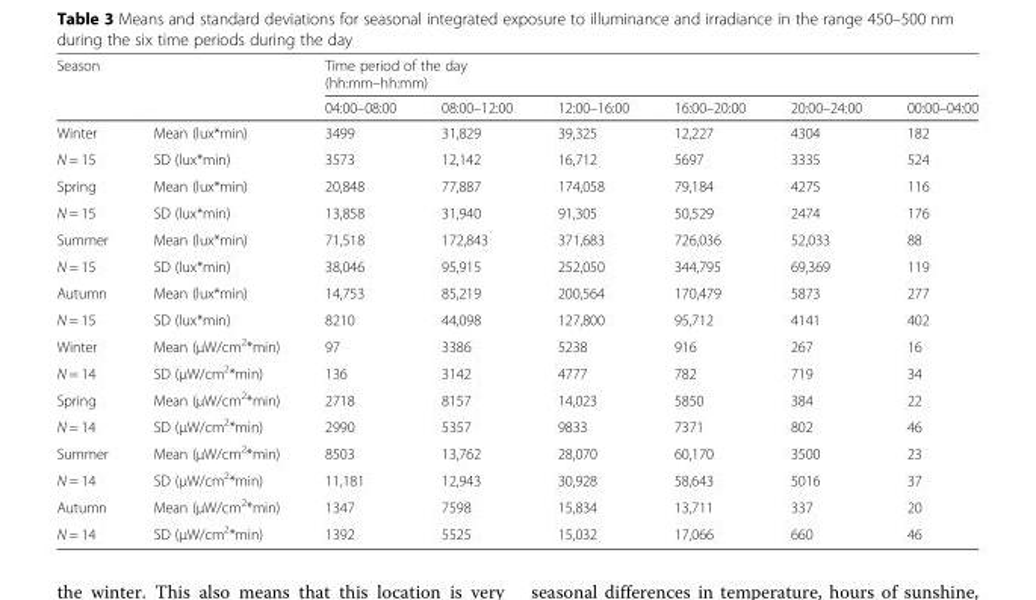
<table><thead><tr><td rowspan="2">Season</td><td rowspan="2"></td><td colspan="6">Time period of the day (hh:mm–hh:mm)</td></tr><tr><td>04:00–08:00</td><td>08:00–12:00</td><td>12:00–16:00</td><td>16:00–20:00</td><td>20:00–24:00</td><td>00:00–04:00</td></tr></thead><tbody><tr><td>Winter</td><td>Mean (lux*min)</td><td>3499</td><td>31,829</td><td>39,325</td><td>12,227</td><td>4304</td><td>182</td></tr><tr><td>N = 15</td><td>SD (lux*min)</td><td>3573</td><td>12,142</td><td>16,712</td><td>5697</td><td>3335</td><td>524</td></tr><tr><td>Spring</td><td>Mean (lux*min)</td><td>20,848</td><td>77,887</td><td>174,058</td><td>79,184</td><td>4275</td><td>116</td></tr><tr><td>N = 15</td><td>SD (lux*min)</td><td>13,858</td><td>31,940</td><td>91,305</td><td>50,529</td><td>2474</td><td>176</td></tr><tr><td>Summer</td><td>Mean (lux*min)</td><td>71,518</td><td>172,843</td><td>371,683</td><td>726,036</td><td>52,033</td><td>88</td></tr><tr><td>N = 15</td><td>SD (lux*min)</td><td>38,046</td><td>95,915</td><td>252,050</td><td>344,795</td><td>69,369</td><td>119</td></tr><tr><td>Autumn</td><td>Mean (lux*min)</td><td>14,753</td><td>85,219</td><td>200,564</td><td>170,479</td><td>5873</td><td>277</td></tr><tr><td>N = 15</td><td>SD (lux*min)</td><td>8210</td><td>44,098</td><td>127,800</td><td>95,712</td><td>4141</td><td>402</td></tr><tr><td>Winter</td><td>Mean (μW/cm<sup>2</sup>*min)</td><td>97</td><td>3386</td><td>5238</td><td>916</td><td>267</td><td>16</td></tr><tr><td>N = 14</td><td>SD (μW/cm<sup>2</sup>*min)</td><td>136</td><td>3142</td><td>4777</td><td>782</td><td>719</td><td>34</td></tr><tr><td>Spring</td><td>Mean (μW/cm<sup>2</sup>*min)</td><td>2718</td><td>8157</td><td>14,023</td><td>5850</td><td>384</td><td>22</td></tr><tr><td>N = 14</td><td>SD (μW/cm<sup>2</sup>*min)</td><td>2990</td><td>5357</td><td>9833</td><td>7371</td><td>802</td><td>46</td></tr><tr><td>Summer</td><td>Mean (μW/cm<sup>2</sup>*min)</td><td>8503</td><td>13,762</td><td>28,070</td><td>60,170</td><td>3500</td><td>23</td></tr><tr><td>N = 14</td><td>SD (μW/cm<sup>2</sup>*min)</td><td>11,181</td><td>12,943</td><td>30,928</td><td>58,643</td><td>5016</td><td>37</td></tr><tr><td>Autumn</td><td>Mean (μW/cm<sup>2</sup>*min)</td><td>1347</td><td>7598</td><td>15,834</td><td>13,711</td><td>337</td><td>20</td></tr><tr><td>N = 14</td><td>SD (μW/cm<sup>2</sup>*min)</td><td>1392</td><td>5525</td><td>15,032</td><td>17,066</td><td>660</td><td>46</td></tr></tbody></table>